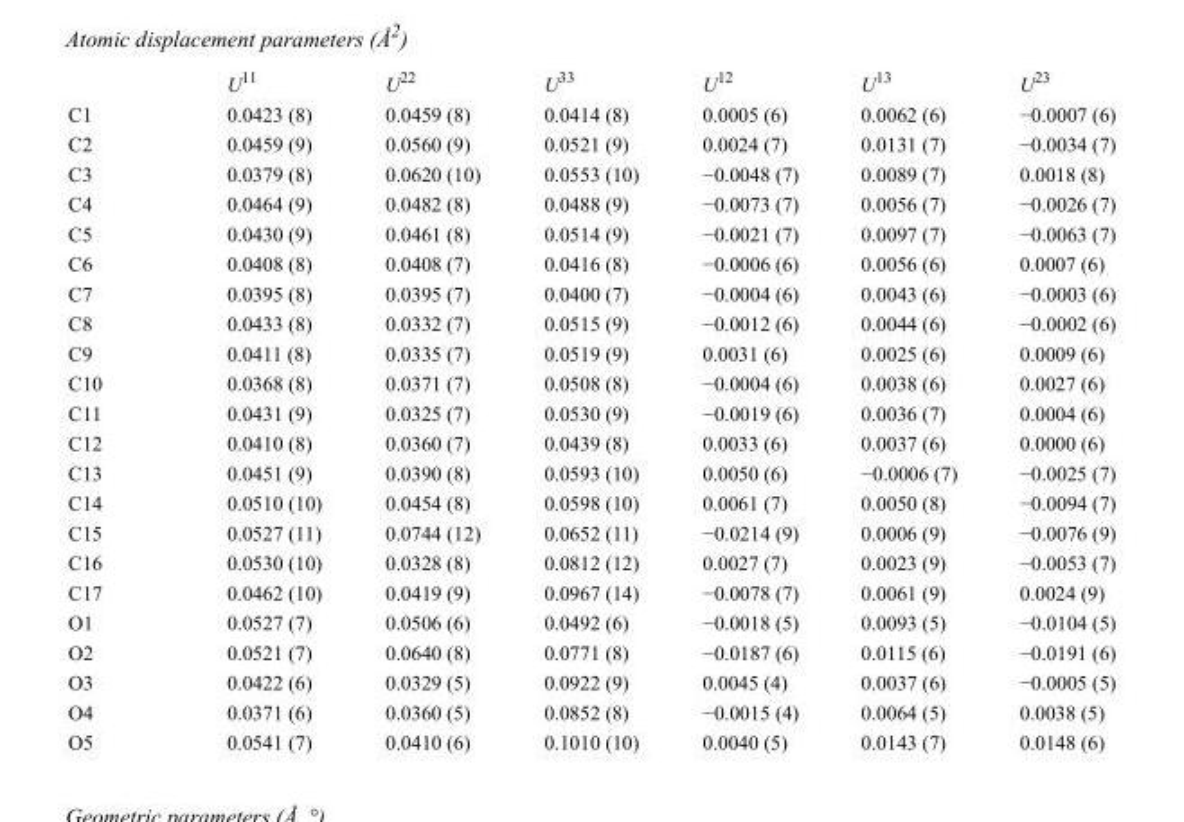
<table><thead><tr><td></td><td>U<sup>11</sup></td><td>U<sup>22</sup></td><td>U<sup>33</sup></td><td>U<sup>12</sup></td><td>U<sup>13</sup></td><td>U<sup>23</sup></td></tr></thead><tbody><tr><td>C1</td><td>0.0423 (8)</td><td>0.0459 (8)</td><td>0.0414 (8)</td><td>0.0005 (6)</td><td>0.0062 (6)</td><td>−0.0007 (6)</td></tr><tr><td>C2</td><td>0.0459 (9)</td><td>0.0560 (9)</td><td>0.0521 (9)</td><td>0.0024 (7)</td><td>0.0131 (7)</td><td>−0.0034 (7)</td></tr><tr><td>C3</td><td>0.0379 (8)</td><td>0.0620 (10)</td><td>0.0553 (10)</td><td>−0.0048 (7)</td><td>0.0089 (7)</td><td>0.0018 (8)</td></tr><tr><td>C4</td><td>0.0464 (9)</td><td>0.0482 (8)</td><td>0.0488 (9)</td><td>−0.0073 (7)</td><td>0.0056 (7)</td><td>−0.0026 (7)</td></tr><tr><td>C5</td><td>0.0430 (9)</td><td>0.0461 (8)</td><td>0.0514 (9)</td><td>−0.0021 (7)</td><td>0.0097 (7)</td><td>−0.0063 (7)</td></tr><tr><td>C6</td><td>0.0408 (8)</td><td>0.0408 (7)</td><td>0.0416 (8)</td><td>−0.0006 (6)</td><td>0.0056 (6)</td><td>0.0007 (6)</td></tr><tr><td>C7</td><td>0.0395 (8)</td><td>0.0395 (7)</td><td>0.0400 (7)</td><td>−0.0004 (6)</td><td>0.0043 (6)</td><td>−0.0003 (6)</td></tr><tr><td>C8</td><td>0.0433 (8)</td><td>0.0332 (7)</td><td>0.0515 (9)</td><td>−0.0012 (6)</td><td>0.0044 (6)</td><td>−0.0002 (6)</td></tr><tr><td>C9</td><td>0.0411 (8)</td><td>0.0335 (7)</td><td>0.0519 (9)</td><td>0.0031 (6)</td><td>0.0025 (6)</td><td>0.0009 (6)</td></tr><tr><td>C10</td><td>0.0368 (8)</td><td>0.0371 (7)</td><td>0.0508 (8)</td><td>−0.0004 (6)</td><td>0.0038 (6)</td><td>0.0027 (6)</td></tr><tr><td>C11</td><td>0.0431 (9)</td><td>0.0325 (7)</td><td>0.0530 (9)</td><td>−0.0019 (6)</td><td>0.0036 (7)</td><td>0.0004 (6)</td></tr><tr><td>C12</td><td>0.0410 (8)</td><td>0.0360 (7)</td><td>0.0439 (8)</td><td>0.0033 (6)</td><td>0.0037 (6)</td><td>0.0000 (6)</td></tr><tr><td>C13</td><td>0.0451 (9)</td><td>0.0390 (8)</td><td>0.0593 (10)</td><td>0.0050 (6)</td><td>−0.0006 (7)</td><td>−0.0025 (7)</td></tr><tr><td>C14</td><td>0.0510 (10)</td><td>0.0454 (8)</td><td>0.0598 (10)</td><td>0.0061 (7)</td><td>0.0050 (8)</td><td>−0.0094 (7)</td></tr><tr><td>C15</td><td>0.0527 (11)</td><td>0.0744 (12)</td><td>0.0652 (11)</td><td>−0.0214 (9)</td><td>0.0006 (9)</td><td>−0.0076 (9)</td></tr><tr><td>C16</td><td>0.0530 (10)</td><td>0.0328 (8)</td><td>0.0812 (12)</td><td>0.0027 (7)</td><td>0.0023 (9)</td><td>−0.0053 (7)</td></tr><tr><td>C17</td><td>0.0462 (10)</td><td>0.0419 (9)</td><td>0.0967 (14)</td><td>−0.0078 (7)</td><td>0.0061 (9)</td><td>0.0024 (9)</td></tr><tr><td>O1</td><td>0.0527 (7)</td><td>0.0506 (6)</td><td>0.0492 (6)</td><td>−0.0018 (5)</td><td>0.0093 (5)</td><td>−0.0104 (5)</td></tr><tr><td>O2</td><td>0.0521 (7)</td><td>0.0640 (8)</td><td>0.0771 (8)</td><td>−0.0187 (6)</td><td>0.0115 (6)</td><td>−0.0191 (6)</td></tr><tr><td>O3</td><td>0.0422 (6)</td><td>0.0329 (5)</td><td>0.0922 (9)</td><td>0.0045 (4)</td><td>0.0037 (6)</td><td>−0.0005 (5)</td></tr><tr><td>O4</td><td>0.0371 (6)</td><td>0.0360 (5)</td><td>0.0852 (8)</td><td>−0.0015 (4)</td><td>0.0064 (5)</td><td>0.0038 (5)</td></tr><tr><td>O5</td><td>0.0541 (7)</td><td>0.0410 (6)</td><td>0.1010 (10)</td><td>0.0040 (5)</td><td>0.0143 (7)</td><td>0.0148 (6)</td></tr></tbody></table>